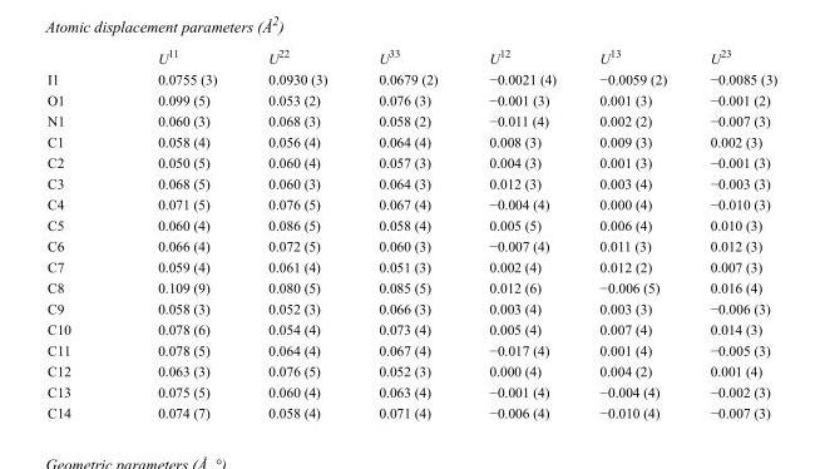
<table><thead><tr><td></td><td>U<sup>11</sup></td><td>U<sup>22</sup></td><td>U<sup>33</sup></td><td>U<sup>12</sup></td><td>U<sup>13</sup></td><td>U<sup>23</sup></td></tr></thead><tbody><tr><td>I1</td><td>0.0755 (3)</td><td>0.0930 (3)</td><td>0.0679 (2)</td><td>−0.0021 (4)</td><td>−0.0059 (2)</td><td>−0.0085 (3)</td></tr><tr><td>O1</td><td>0.099 (5)</td><td>0.053 (2)</td><td>0.076 (3)</td><td>−0.001 (3)</td><td>0.001 (3)</td><td>−0.001 (2)</td></tr><tr><td>N1</td><td>0.060 (3)</td><td>0.068 (3)</td><td>0.058 (2)</td><td>−0.011 (4)</td><td>0.002 (2)</td><td>−0.007 (3)</td></tr><tr><td>C1</td><td>0.058 (4)</td><td>0.056 (4)</td><td>0.064 (4)</td><td>0.008 (3)</td><td>0.009 (3)</td><td>0.002 (3)</td></tr><tr><td>C2</td><td>0.050 (5)</td><td>0.060 (4)</td><td>0.057 (3)</td><td>0.004 (3)</td><td>0.001 (3)</td><td>−0.001 (3)</td></tr><tr><td>C3</td><td>0.068 (5)</td><td>0.060 (3)</td><td>0.064 (3)</td><td>0.012 (3)</td><td>0.003 (4)</td><td>−0.003 (3)</td></tr><tr><td>C4</td><td>0.071 (5)</td><td>0.076 (5)</td><td>0.067 (4)</td><td>−0.004 (4)</td><td>0.000 (4)</td><td>−0.010 (3)</td></tr><tr><td>C5</td><td>0.060 (4)</td><td>0.086 (5)</td><td>0.058 (4)</td><td>0.005 (5)</td><td>0.006 (4)</td><td>0.010 (3)</td></tr><tr><td>C6</td><td>0.066 (4)</td><td>0.072 (5)</td><td>0.060 (3)</td><td>−0.007 (4)</td><td>0.011 (3)</td><td>0.012 (3)</td></tr><tr><td>C7</td><td>0.059 (4)</td><td>0.061 (4)</td><td>0.051 (3)</td><td>0.002 (4)</td><td>0.012 (2)</td><td>0.007 (3)</td></tr><tr><td>C8</td><td>0.109 (9)</td><td>0.080 (5)</td><td>0.085 (5)</td><td>0.012 (6)</td><td>−0.006 (5)</td><td>0.016 (4)</td></tr><tr><td>C9</td><td>0.058 (3)</td><td>0.052 (3)</td><td>0.066 (3)</td><td>0.003 (4)</td><td>0.003 (3)</td><td>−0.006 (3)</td></tr><tr><td>C10</td><td>0.078 (6)</td><td>0.054 (4)</td><td>0.073 (4)</td><td>0.005 (4)</td><td>0.007 (4)</td><td>0.014 (3)</td></tr><tr><td>C11</td><td>0.078 (5)</td><td>0.064 (4)</td><td>0.067 (4)</td><td>−0.017 (4)</td><td>0.001 (4)</td><td>−0.005 (3)</td></tr><tr><td>C12</td><td>0.063 (3)</td><td>0.076 (5)</td><td>0.052 (3)</td><td>0.000 (4)</td><td>0.004 (2)</td><td>0.001 (4)</td></tr><tr><td>C13</td><td>0.075 (5)</td><td>0.060 (4)</td><td>0.063 (4)</td><td>−0.001 (4)</td><td>−0.004 (4)</td><td>−0.002 (3)</td></tr><tr><td>C14</td><td>0.074 (7)</td><td>0.058 (4)</td><td>0.071 (4)</td><td>−0.006 (4)</td><td>−0.010 (4)</td><td>−0.007 (3)</td></tr></tbody></table>